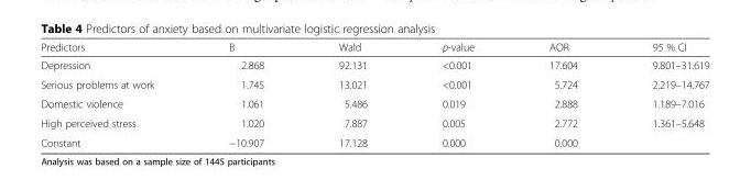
<table><thead><tr><td>Predictors</td><td>B</td><td>Wald</td><td>p-value</td><td>AOR</td><td>95 % CI</td></tr></thead><tbody><tr><td>Depression</td><td>2.868</td><td>92.131</td><td>&lt;0.001</td><td>17.604</td><td>9.801–31.619</td></tr><tr><td>Serious problems at work</td><td>1.745</td><td>13.021</td><td>&lt;0.001</td><td>5.724</td><td>2.219–14.767</td></tr><tr><td>Domestic violence</td><td>1.061</td><td>5.486</td><td>0.019</td><td>2.888</td><td>1.189–7.016</td></tr><tr><td>High perceived stress</td><td>1.020</td><td>7.887</td><td>0.005</td><td>2.772</td><td>1.361–5.648</td></tr><tr><td>Constant</td><td>−10.907</td><td>17.128</td><td>0.000</td><td>0.000</td><td></td></tr></tbody></table>